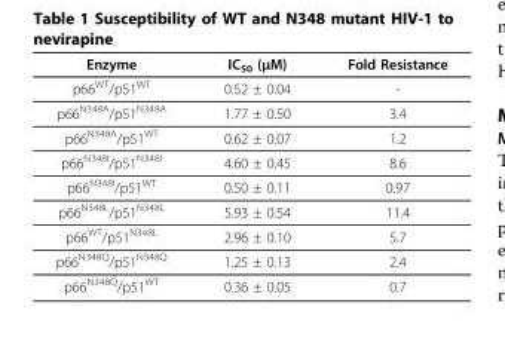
<table><thead><tr><td>Enzyme</td><td>IC<sub>50</sub> (μM)</td><td>Fold Resistance</td></tr></thead><tbody><tr><td>p66<sup>WT</sup>/p51<sup>WT</sup></td><td>0.52 ± 0.04</td><td>-</td></tr><tr><td>p66<sup>N348A</sup>/p51<sup>N348A</sup></td><td>1.77 ± 0.50</td><td>3.4</td></tr><tr><td>p66<sup>N348A</sup>/p51<sup>WT</sup></td><td>0.62 ± 0.07</td><td>1.2</td></tr><tr><td>p66<sup>N348I</sup>/p51<sup>N348I</sup></td><td>4.60 ± 0.45</td><td>8.6</td></tr><tr><td>p66<sup>N348I</sup>/p51<sup>WT</sup></td><td>0.50 ± 0.11</td><td>0.97</td></tr><tr><td>p66<sup>N348L</sup>/p51<sup>N348L</sup></td><td>5.93 ± 0.54</td><td>11.4</td></tr><tr><td>p66<sup>WT</sup>/p51<sup>N348L</sup></td><td>2.96 ± 0.10</td><td>5.7</td></tr><tr><td>p66<sup>N348Q</sup>/p51<sup>N348Q</sup></td><td>1.25 ± 0.13</td><td>2.4</td></tr><tr><td>p66<sup>N348Q</sup>/p51<sup>WT</sup></td><td>0.36 ± 0.05</td><td>0.7</td></tr></tbody></table>